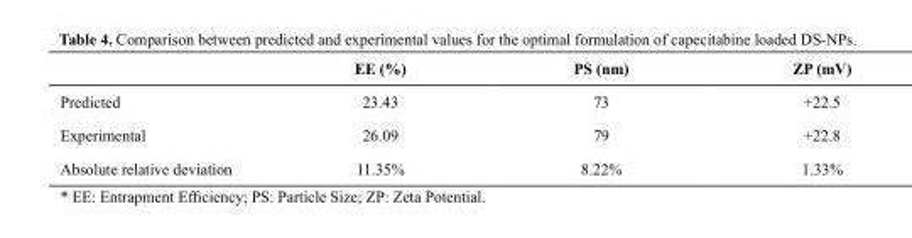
<table><thead><tr><td></td><td>EE (%)</td><td>PS (nm)</td><td>ZP (mV)</td></tr></thead><tbody><tr><td>Predicted</td><td>23.43</td><td>73</td><td>+22.5</td></tr><tr><td>Experimental</td><td>26.09</td><td>79</td><td>+22.8</td></tr><tr><td>Absolute relative deviation</td><td>11.35%</td><td>8.22%</td><td>1.33%</td></tr></tbody></table>